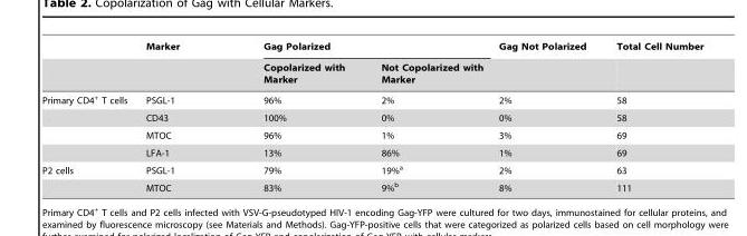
<table><thead><tr><td rowspan="2"></td><td rowspan="2">Marker</td><td colspan="2">Gag Polarized</td><td rowspan="2">Gag Not Polarized</td><td rowspan="2">Total Cell Number</td></tr><tr><td>Copolarized with Marker</td><td>Not Copolarized with Marker</td></tr></thead><tbody><tr><td rowspan="4">Primary CD4<sup>+</sup> T cells</td><td>PSGL-1</td><td>96%</td><td>2%</td><td>2%</td><td>58</td></tr><tr><td>CD43</td><td>100%</td><td>0%</td><td>0%</td><td>58</td></tr><tr><td>MTOC</td><td>96%</td><td>1%</td><td>3%</td><td>69</td></tr><tr><td>LFA-1</td><td>13%</td><td>86%</td><td>1%</td><td>69</td></tr><tr><td rowspan="2">P2 cells</td><td>PSGL-1</td><td>79%</td><td>19%<sup>a</sup></td><td>2%</td><td>63</td></tr><tr><td>MTOC</td><td>83%</td><td>9%<sup>b</sup></td><td>8%</td><td>111</td></tr></tbody></table>